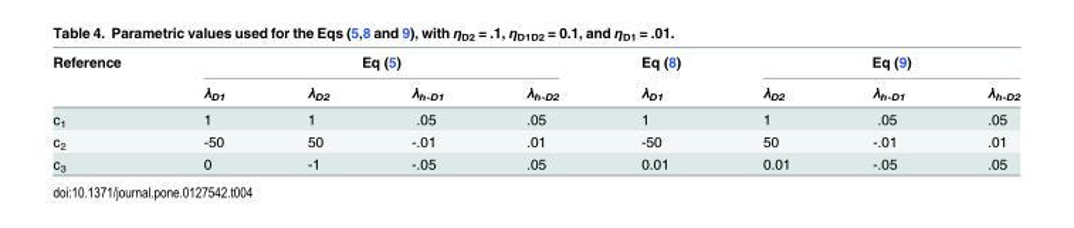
<table><thead><tr><td rowspan="2">Reference</td><td colspan="4">Eq (5)</td><td rowspan="2">Eq (8) λ<sub>D1</sub></td><td colspan="3">Eq (9)</td></tr><tr><td>λ<sub>D1</sub></td><td>λ<sub>D2</sub></td><td>λ<sub>h-D1</sub></td><td>λ<sub>h-D2</sub></td><td>λ<sub>D2</sub></td><td>λ<sub>h-D1</sub></td><td>λ<sub>h-D2</sub></td></tr></thead><tbody><tr><td>c<sub>1</sub></td><td>1</td><td>1</td><td>.05</td><td>.05</td><td>1</td><td>1</td><td>.05</td><td>.05</td></tr><tr><td>c<sub>2</sub></td><td>-50</td><td>50</td><td>-.01</td><td>.01</td><td>-50</td><td>50</td><td>-.01</td><td>.01</td></tr><tr><td>c<sub>3</sub></td><td>0</td><td>-1</td><td>-.05</td><td>.05</td><td>0.01</td><td>0.01</td><td>-.05</td><td>.05</td></tr></tbody></table>